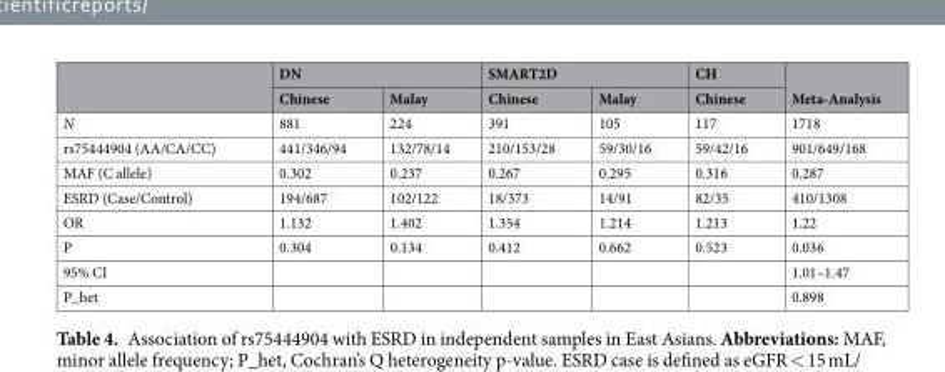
<table><thead><tr><td rowspan="2"></td><td colspan="2">DN</td><td colspan="2">SMART2D</td><td rowspan="2">CH Chinese</td><td rowspan="2">Meta-Analysis</td></tr><tr><td>Chinese</td><td>Malay</td><td>Chinese</td><td>Malay</td></tr></thead><tbody><tr><td>N</td><td>881</td><td>224</td><td>391</td><td>105</td><td>117</td><td>1718</td></tr><tr><td>rs75444904 (AA/CA/CC)</td><td>441/346/94</td><td>132/78/14</td><td>210/153/28</td><td>59/30/16</td><td>59/42/16</td><td>901/649/168</td></tr><tr><td>MAF (C allele)</td><td>0.302</td><td>0.237</td><td>0.267</td><td>0.295</td><td>0.316</td><td>0.287</td></tr><tr><td>ESRD (Case/Control)</td><td>194/687</td><td>102/122</td><td>18/373</td><td>14/91</td><td>82/35</td><td>410/1308</td></tr><tr><td>OR</td><td>1.132</td><td>1.402</td><td>1.354</td><td>1.214</td><td>1.213</td><td>1.22</td></tr><tr><td>P</td><td>0.304</td><td>0.134</td><td>0.412</td><td>0.662</td><td>0.523</td><td>0.036</td></tr><tr><td>95% CI</td><td></td><td></td><td></td><td></td><td></td><td>1.01–1.47</td></tr><tr><td>P_het</td><td></td><td></td><td></td><td></td><td></td><td>0.898</td></tr></tbody></table>